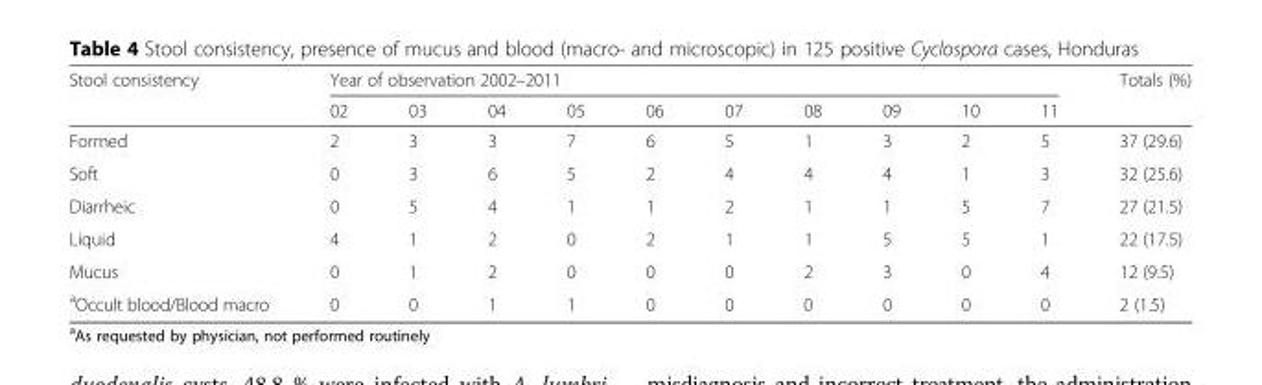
<table><thead><tr><td rowspan="2">Stool consistency</td><td colspan="10">Year of observation 2002–2011</td><td rowspan="2">Totals (%)</td></tr><tr><td>02</td><td>03</td><td>04</td><td>05</td><td>06</td><td>07</td><td>08</td><td>09</td><td>10</td><td>11</td></tr></thead><tbody><tr><td>Formed</td><td>2</td><td>3</td><td>3</td><td>7</td><td>6</td><td>5</td><td>1</td><td>3</td><td>2</td><td>5</td><td>37 (29.6)</td></tr><tr><td>Soft</td><td>0</td><td>3</td><td>6</td><td>5</td><td>2</td><td>4</td><td>4</td><td>4</td><td>1</td><td>3</td><td>32 (25.6)</td></tr><tr><td>Diarrheic</td><td>0</td><td>5</td><td>4</td><td>1</td><td>1</td><td>2</td><td>1</td><td>1</td><td>5</td><td>7</td><td>27 (21.5)</td></tr><tr><td>Liquid</td><td>4</td><td>1</td><td>2</td><td>0</td><td>2</td><td>1</td><td>1</td><td>5</td><td>5</td><td>1</td><td>22 (17.5)</td></tr><tr><td>Mucus</td><td>0</td><td>1</td><td>2</td><td>0</td><td>0</td><td>0</td><td>2</td><td>3</td><td>0</td><td>4</td><td>12 (9.5)</td></tr><tr><td><sup>a</sup>Occult blood/Blood macro</td><td>0</td><td>0</td><td>1</td><td>1</td><td>0</td><td>0</td><td>0</td><td>0</td><td>0</td><td>0</td><td>2 (1.5)</td></tr></tbody></table>